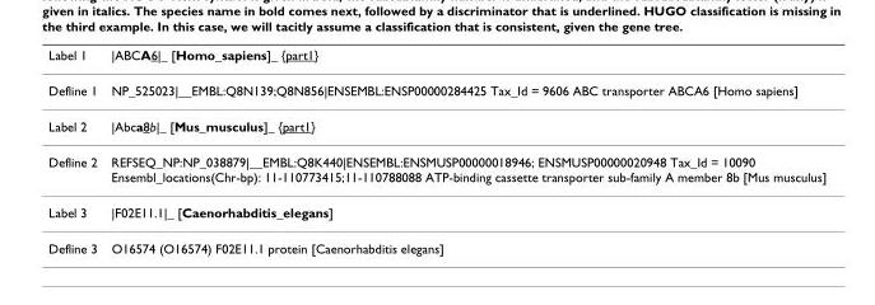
<table><thead><tr><td>Label 1</td><td>|ABCA6|_ [Homo_sapiens]_ {part1}</td></tr></thead><tbody><tr><td>Defline 1</td><td>NP_525023|__EMBL:Q8N139;Q8N856|ENSEMBL:ENSP00000284425 Tax_Id = 9606 ABC transporter ABCA6 [Homo sapiens]</td></tr><tr><td>Label 2</td><td>|Abca8b|_ [Mus_musculus]_ {part1}</td></tr><tr><td>Defline 2</td><td>REFSEQ_NP:NP_038879|__EMBL:Q8K440|ENSEMBL:ENSMUSP00000018946; ENSMUSP00000020948 Tax_Id = 10090 Ensembl_locations(Chr-bp): 11-110773415;11-110788088 ATP-binding cassette transporter sub-family A member 8b [Mus musculus]</td></tr><tr><td>Label 3</td><td>|F02E11.1|_ [Caenorhabditis_elegans]</td></tr><tr><td>Defline 3</td><td>O16574 (O16574) F02E11.1 protein [Caenorhabditis elegans]</td></tr></tbody></table>